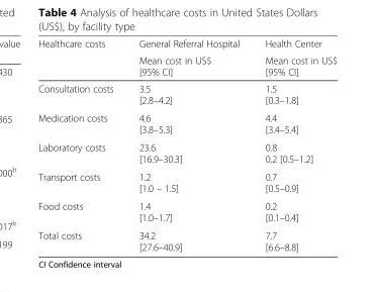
<table><thead><tr><td rowspan="2">Healthcare costs</td><td rowspan="2">General Referral Hospital Mean cost in US$ [95% CI]</td><td rowspan="2">Health Center Mean cost in US$ [95% CI]</td></tr><tr></tr></thead><tbody><tr><td>Consultation costs</td><td>3.5 [2.8–4.2]</td><td>1.5 [0.3–1.8]</td></tr><tr><td>Medication costs</td><td>4.6 [3.8–5.3]</td><td>4.4 [3.4–5.4]</td></tr><tr><td>Laboratory costs</td><td>23.6 [16.9–30.3]</td><td>0.8 0.2 [0.5–1.2]</td></tr><tr><td>Transport costs</td><td>1.2 [1.0 – 1.5]</td><td>0.7 [0.5–0.9]</td></tr><tr><td>Food costs</td><td>1.4 [1.0–1.7]</td><td>0.2 [0.1–0.4]</td></tr><tr><td>Total costs</td><td>34.2 [27.6–40.9]</td><td>7.7 [6.6–8.8]</td></tr></tbody></table>